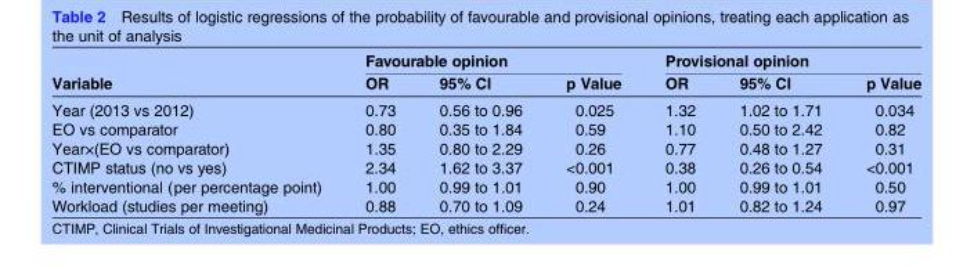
<table><thead><tr><td rowspan="2">Variable</td><td colspan="3">Favourable opinion</td><td colspan="3">Provisional opinion</td></tr><tr><td>OR</td><td>95% CI</td><td>p Value</td><td>OR</td><td>95% CI</td><td>p Value</td></tr></thead><tbody><tr><td>Year (2013 vs 2012)</td><td>0.73</td><td>0.56 to 0.96</td><td>0.025</td><td>1.32</td><td>1.02 to 1.71</td><td>0.034</td></tr><tr><td>EO vs comparator</td><td>0.80</td><td>0.35 to 1.84</td><td>0.59</td><td>1.10</td><td>0.50 to 2.42</td><td>0.82</td></tr><tr><td>Year×(EO vs comparator)</td><td>1.35</td><td>0.80 to 2.29</td><td>0.26</td><td>0.77</td><td>0.48 to 1.27</td><td>0.31</td></tr><tr><td>CTIMP status (no vs yes)</td><td>2.34</td><td>1.62 to 3.37</td><td>&lt;0.001</td><td>0.38</td><td>0.26 to 0.54</td><td>&lt;0.001</td></tr><tr><td>% interventional (per percentage point)</td><td>1.00</td><td>0.99 to 1.01</td><td>0.90</td><td>1.00</td><td>0.99 to 1.01</td><td>0.50</td></tr><tr><td>Workload (studies per meeting)</td><td>0.88</td><td>0.70 to 1.09</td><td>0.24</td><td>1.01</td><td>0.82 to 1.24</td><td>0.97</td></tr></tbody></table>